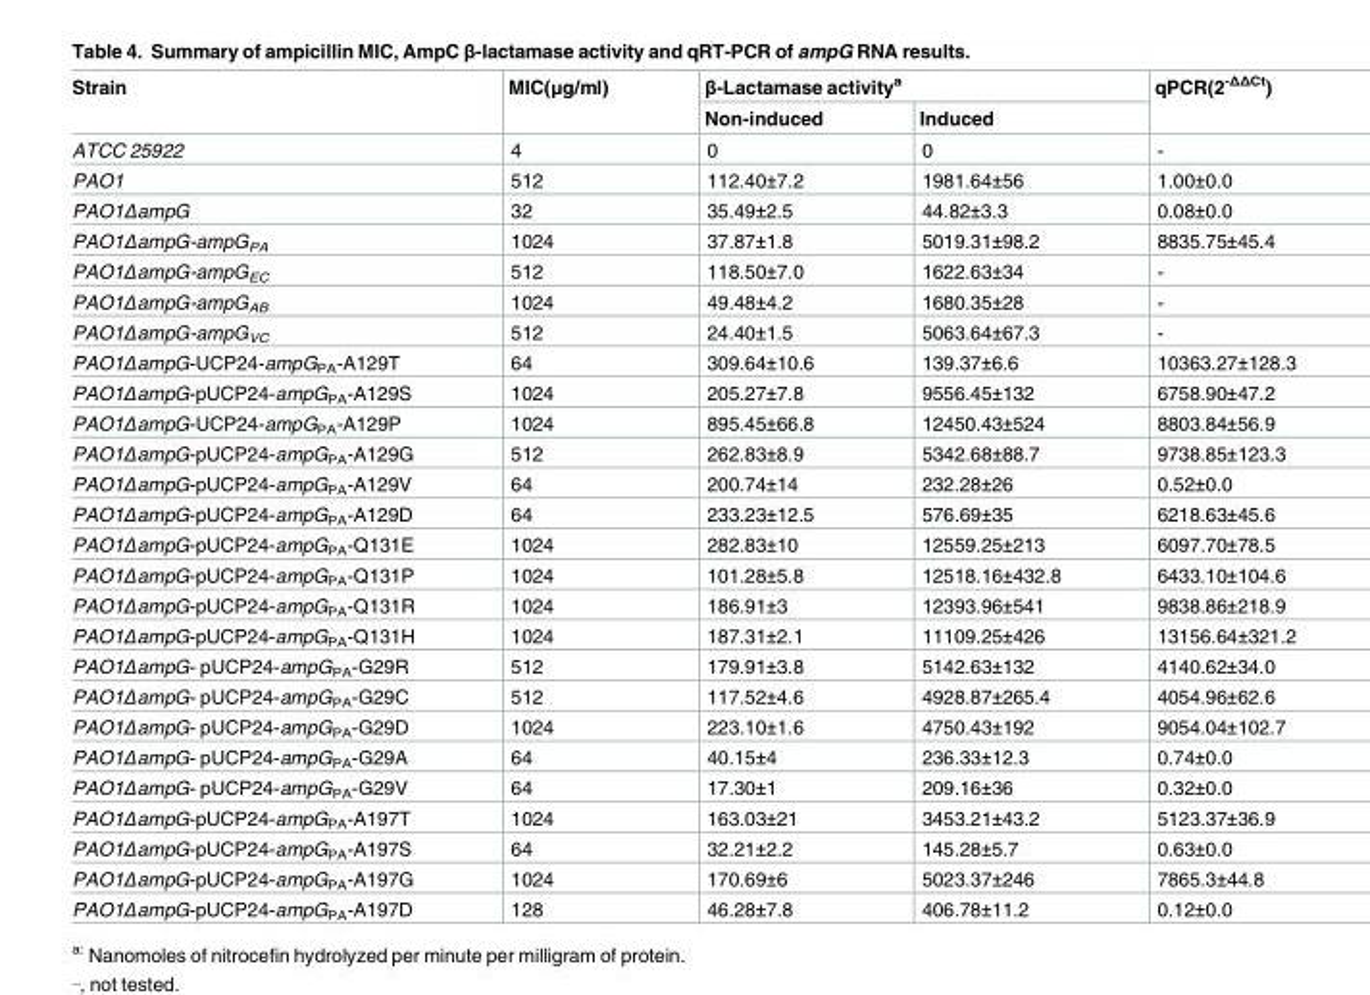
<table><thead><tr><td rowspan="2">Strain</td><td rowspan="2">MIC(μg/ml)</td><td colspan="2">β-Lactamase activity<sup>a</sup></td><td rowspan="2">qPCR(2<sup>-ΔΔCt</sup>)</td></tr><tr><td>Non-induced</td><td>Induced</td></tr></thead><tbody><tr><td>ATCC 25922</td><td>4</td><td>0</td><td>0</td><td>-</td></tr><tr><td>PAO1</td><td>512</td><td>112.40±7.2</td><td>1981.64±56</td><td>1.00±0.0</td></tr><tr><td>PAO1ΔampG</td><td>32</td><td>35.49±2.5</td><td>44.82±3.3</td><td>0.08±0.0</td></tr><tr><td>PAO1ΔampG-ampG<sub>PA</sub></td><td>1024</td><td>37.87±1.8</td><td>5019.31±98.2</td><td>8835.75±45.4</td></tr><tr><td>PAO1ΔampG-ampG<sub>EC</sub></td><td>512</td><td>118.50±7.0</td><td>1622.63±34</td><td>-</td></tr><tr><td>PAO1ΔampG-ampG<sub>AB</sub></td><td>1024</td><td>49.48±4.2</td><td>1680.35±28</td><td>-</td></tr><tr><td>PAO1ΔampG-ampG<sub>VC</sub></td><td>512</td><td>24.40±1.5</td><td>5063.64±67.3</td><td>-</td></tr><tr><td>PAO1ΔampG-UCP24-ampG<sub>PA</sub>-A129T</td><td>64</td><td>309.64±10.6</td><td>139.37±6.6</td><td>10363.27±128.3</td></tr><tr><td>PAO1ΔampG-pUCP24-ampG<sub>PA</sub>-A129S</td><td>1024</td><td>205.27±7.8</td><td>9556.45±132</td><td>6758.90±47.2</td></tr><tr><td>PAO1ΔampG-UCP24-ampG<sub>PA</sub>-A129P</td><td>1024</td><td>895.45±66.8</td><td>12450.43±524</td><td>8803.84±56.9</td></tr><tr><td>PAO1ΔampG-pUCP24-ampG<sub>PA</sub>-A129G</td><td>512</td><td>262.83±8.9</td><td>5342.68±88.7</td><td>9738.85±123.3</td></tr><tr><td>PAO1ΔampG-pUCP24-ampG<sub>PA</sub>-A129V</td><td>64</td><td>200.74±14</td><td>232.28±26</td><td>0.52±0.0</td></tr><tr><td>PAO1ΔampG-pUCP24-ampG<sub>PA</sub>-A129D</td><td>64</td><td>233.23±12.5</td><td>576.69±35</td><td>6218.63±45.6</td></tr><tr><td>PAO1ΔampG-pUCP24-ampG<sub>PA</sub>-Q131E</td><td>1024</td><td>282.83±10</td><td>12559.25±213</td><td>6097.70±78.5</td></tr><tr><td>PAO1ΔampG-pUCP24-ampG<sub>PA</sub>-Q131P</td><td>1024</td><td>101.28±5.8</td><td>12518.16±432.8</td><td>6433.10±104.6</td></tr><tr><td>PAO1ΔampG-pUCP24-ampG<sub>PA</sub>-Q131R</td><td>1024</td><td>186.91±3</td><td>12393.96±541</td><td>9838.86±218.9</td></tr><tr><td>PAO1ΔampG-pUCP24-ampG<sub>PA</sub>-Q131H</td><td>1024</td><td>187.31±2.1</td><td>11109.25±426</td><td>13156.64±321.2</td></tr><tr><td>PAO1ΔampG- pUCP24-ampG<sub>PA</sub>-G29R</td><td>512</td><td>179.91±3.8</td><td>5142.63±132</td><td>4140.62±34.0</td></tr><tr><td>PAO1ΔampG- pUCP24-ampG<sub>PA</sub>-G29C</td><td>512</td><td>117.52±4.6</td><td>4928.87±265.4</td><td>4054.96±62.6</td></tr><tr><td>PAO1ΔampG- pUCP24-ampG<sub>PA</sub>-G29D</td><td>1024</td><td>223.10±1.6</td><td>4750.43±192</td><td>9054.04±102.7</td></tr><tr><td>PAO1ΔampG- pUCP24-ampG<sub>PA</sub>-G29A</td><td>64</td><td>40.15±4</td><td>236.33±12.3</td><td>0.74±0.0</td></tr><tr><td>PAO1ΔampG- pUCP24-ampG<sub>PA</sub>-G29V</td><td>64</td><td>17.30±1</td><td>209.16±36</td><td>0.32±0.0</td></tr><tr><td>PAO1ΔampG-pUCP24-ampG<sub>PA</sub>-A197T</td><td>1024</td><td>163.03±21</td><td>3453.21±43.2</td><td>5123.37±36.9</td></tr><tr><td>PAO1ΔampG-pUCP24-ampG<sub>PA</sub>-A197S</td><td>64</td><td>32.21±2.2</td><td>145.28±5.7</td><td>0.63±0.0</td></tr><tr><td>PAO1ΔampG-pUCP24-ampG<sub>PA</sub>-A197G</td><td>1024</td><td>170.69±6</td><td>5023.37±246</td><td>7865.3±44.8</td></tr><tr><td>PAO1ΔampG-pUCP24-ampG<sub>PA</sub>-A197D</td><td>128</td><td>46.28±7.8</td><td>406.78±11.2</td><td>0.12±0.0</td></tr></tbody></table>